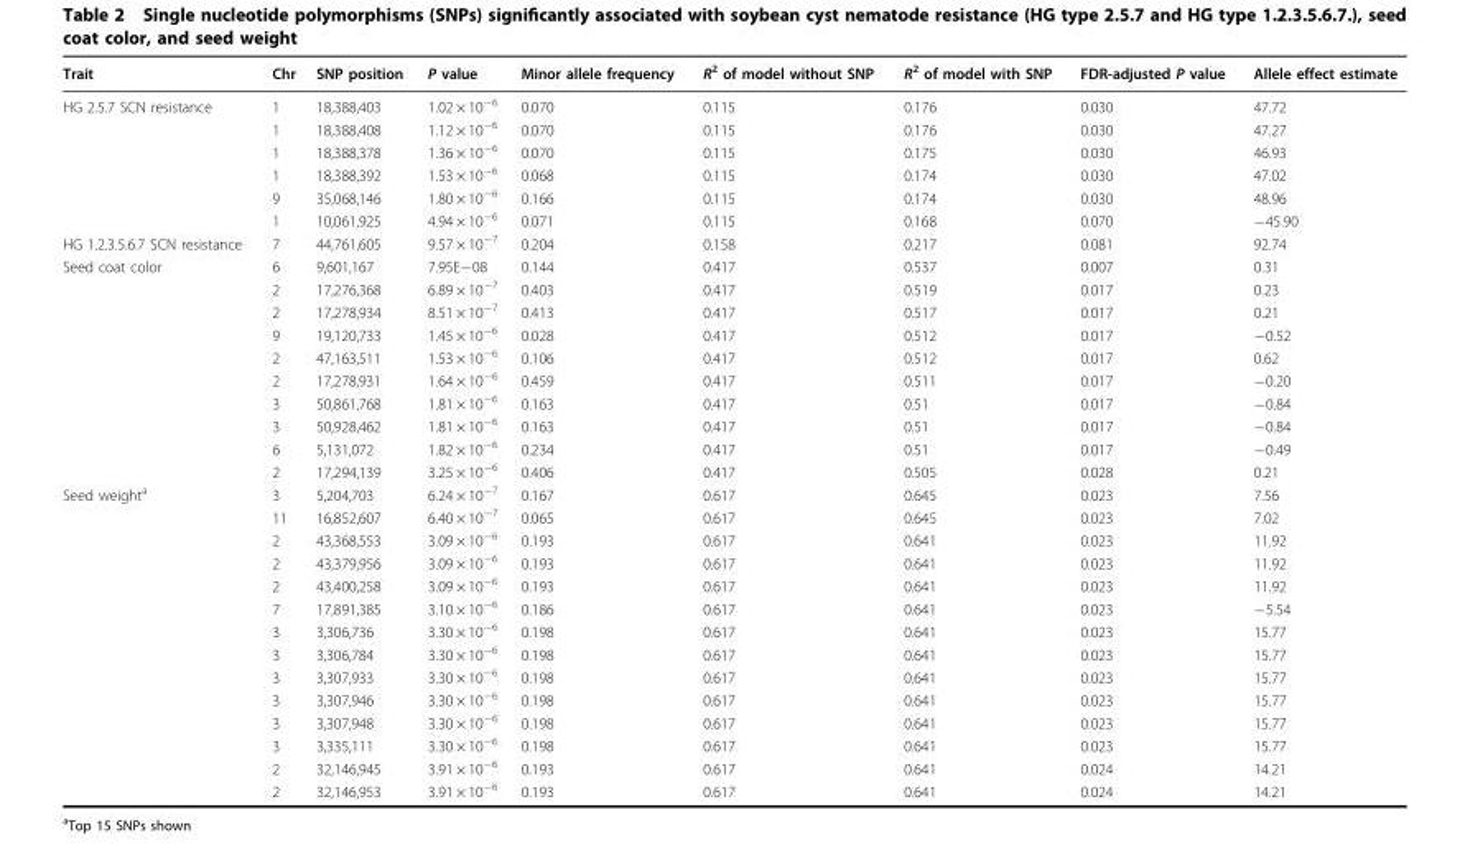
<table><thead><tr><td>Trait</td><td>Chr</td><td>SNP position</td><td>P value</td><td>Minor allele frequency</td><td>R<sup>2</sup> of model without SNP</td><td>R<sup>2</sup> of model with SNP</td><td>FDR-adjusted P value</td><td>Allele effect estimate</td></tr></thead><tbody><tr><td rowspan="6">HG 2.5.7 SCN resistance</td><td>1</td><td>18,388,403</td><td>1.02 × 10<sup>−6</sup></td><td>0.070</td><td>0.115</td><td>0.176</td><td>0.030</td><td>47.72</td></tr><tr><td>1</td><td>18,388,408</td><td>1.12 × 10<sup>−6</sup></td><td>0.070</td><td>0.115</td><td>0.176</td><td>0.030</td><td>47.27</td></tr><tr><td>1</td><td>18,388,378</td><td>1.36 × 10<sup>−6</sup></td><td>0.070</td><td>0.115</td><td>0.175</td><td>0.030</td><td>46.93</td></tr><tr><td>1</td><td>18,388,392</td><td>1.53 × 10<sup>−6</sup></td><td>0.068</td><td>0.115</td><td>0.174</td><td>0.030</td><td>47.02</td></tr><tr><td>9</td><td>35,068,146</td><td>1.80 × 10<sup>−6</sup></td><td>0.166</td><td>0.115</td><td>0.174</td><td>0.030</td><td>48.96</td></tr><tr><td>1</td><td>10,061,925</td><td>4.94 × 10<sup>−6</sup></td><td>0.071</td><td>0.115</td><td>0.168</td><td>0.070</td><td>−45.90</td></tr><tr><td>HG 1.2.3.5.6.7 SCN resistance</td><td>7</td><td>44,761,605</td><td>9.57 × 10<sup>−7</sup></td><td>0.204</td><td>0.158</td><td>0.217</td><td>0.081</td><td>92.74</td></tr><tr><td rowspan="10">Seed coat color</td><td>6</td><td>9,601,167</td><td>7.95E−08</td><td>0.144</td><td>0.417</td><td>0.537</td><td>0.007</td><td>0.31</td></tr><tr><td>2</td><td>17,276,368</td><td>6.89 × 10<sup>−7</sup></td><td>0.403</td><td>0.417</td><td>0.519</td><td>0.017</td><td>0.23</td></tr><tr><td>2</td><td>17,278,934</td><td>8.51 × 10<sup>−7</sup></td><td>0.413</td><td>0.417</td><td>0.517</td><td>0.017</td><td>0.21</td></tr><tr><td>9</td><td>19,120,733</td><td>1.45 × 10<sup>−6</sup></td><td>0.028</td><td>0.417</td><td>0.512</td><td>0.017</td><td>−0.52</td></tr><tr><td>2</td><td>47,163,511</td><td>1.53 × 10<sup>−6</sup></td><td>0.106</td><td>0.417</td><td>0.512</td><td>0.017</td><td>0.62</td></tr><tr><td>2</td><td>17,278,931</td><td>1.64 × 10<sup>−6</sup></td><td>0.459</td><td>0.417</td><td>0.511</td><td>0.017</td><td>−0.20</td></tr><tr><td>3</td><td>50,861,768</td><td>1.81 × 10<sup>−6</sup></td><td>0.163</td><td>0.417</td><td>0.51</td><td>0.017</td><td>−0.84</td></tr><tr><td>3</td><td>50,928,462</td><td>1.81 × 10<sup>−6</sup></td><td>0.163</td><td>0.417</td><td>0.51</td><td>0.017</td><td>−0.84</td></tr><tr><td>6</td><td>5,131,072</td><td>1.82 × 10<sup>−6</sup></td><td>0.234</td><td>0.417</td><td>0.51</td><td>0.017</td><td>−0.49</td></tr><tr><td>2</td><td>17,294,139</td><td>3.25 × 10<sup>−6</sup></td><td>0.406</td><td>0.417</td><td>0.505</td><td>0.028</td><td>0.21</td></tr><tr><td rowspan="14">Seed weight<sup>a</sup></td><td>3</td><td>5,204,703</td><td>6.24 × 10<sup>−7</sup></td><td>0.167</td><td>0.617</td><td>0.645</td><td>0.023</td><td>7.56</td></tr><tr><td>11</td><td>16,852,607</td><td>6.40 × 10<sup>−7</sup></td><td>0.065</td><td>0.617</td><td>0.645</td><td>0.023</td><td>7.02</td></tr><tr><td>2</td><td>43,368,553</td><td>3.09 × 10<sup>−6</sup></td><td>0.193</td><td>0.617</td><td>0.641</td><td>0.023</td><td>11.92</td></tr><tr><td>2</td><td>43,379,956</td><td>3.09 × 10<sup>−6</sup></td><td>0.193</td><td>0.617</td><td>0.641</td><td>0.023</td><td>11.92</td></tr><tr><td>2</td><td>43,400,258</td><td>3.09 × 10<sup>−6</sup></td><td>0.193</td><td>0.617</td><td>0.641</td><td>0.023</td><td>11.92</td></tr><tr><td>7</td><td>17,891,385</td><td>3.10 × 10<sup>−6</sup></td><td>0.186</td><td>0.617</td><td>0.641</td><td>0.023</td><td>−5.54</td></tr><tr><td>3</td><td>3,306,736</td><td>3.30 × 10<sup>−6</sup></td><td>0.198</td><td>0.617</td><td>0.641</td><td>0.023</td><td>15.77</td></tr><tr><td>3</td><td>3,306,784</td><td>3.30 × 10<sup>−6</sup></td><td>0.198</td><td>0.617</td><td>0.641</td><td>0.023</td><td>15.77</td></tr><tr><td>3</td><td>3,307,933</td><td>3.30 × 10<sup>−6</sup></td><td>0.198</td><td>0.617</td><td>0.641</td><td>0.023</td><td>15.77</td></tr><tr><td>3</td><td>3,307,946</td><td>3.30 × 10<sup>−6</sup></td><td>0.198</td><td>0.617</td><td>0.641</td><td>0.023</td><td>15.77</td></tr><tr><td>3</td><td>3,307,948</td><td>3.30 × 10<sup>−6</sup></td><td>0.198</td><td>0.617</td><td>0.641</td><td>0.023</td><td>15.77</td></tr><tr><td>3</td><td>3,335,111</td><td>3.30 × 10<sup>−6</sup></td><td>0.198</td><td>0.617</td><td>0.641</td><td>0.023</td><td>15.77</td></tr><tr><td>2</td><td>32,146,945</td><td>3.91 × 10<sup>−6</sup></td><td>0.193</td><td>0.617</td><td>0.641</td><td>0.024</td><td>14.21</td></tr><tr><td>2</td><td>32,146,953</td><td>3.91 × 10<sup>−6</sup></td><td>0.193</td><td>0.617</td><td>0.641</td><td>0.024</td><td>14.21</td></tr></tbody></table>